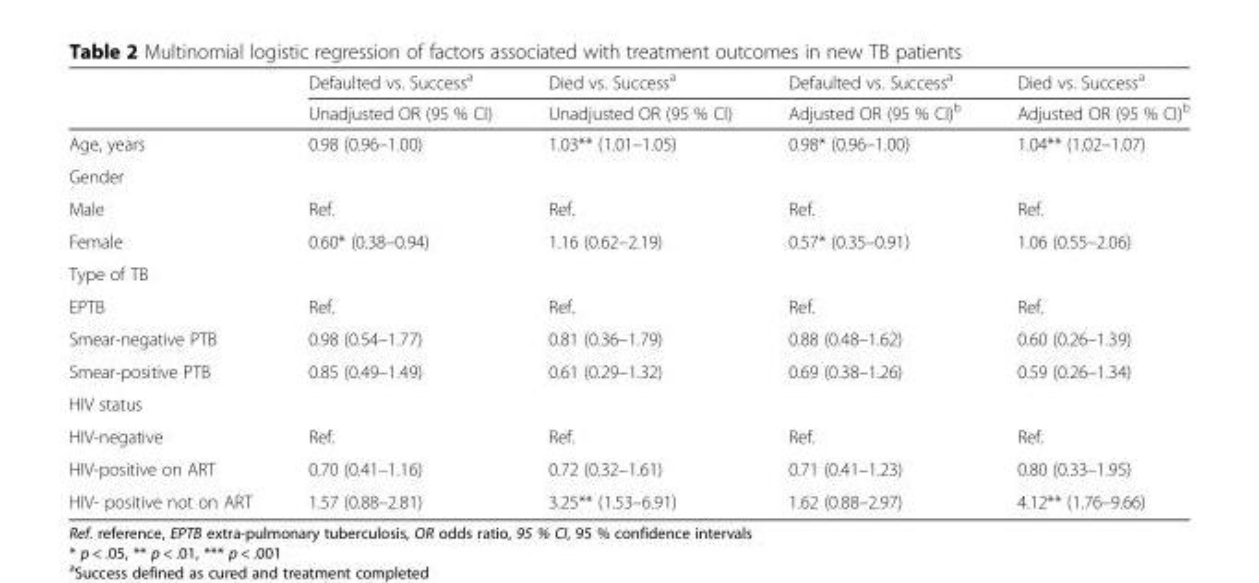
<table><thead><tr><td rowspan="2"></td><td rowspan="2">Defaulted vs. Success<sup>a</sup> Unadjusted OR (95 % CI)</td><td rowspan="2">Died vs. Success<sup>a</sup> Unadjusted OR (95 % CI)</td><td rowspan="2">Defaulted vs. Success<sup>a</sup> Adjusted OR (95 % CI)<sup>b</sup></td><td rowspan="2">Died vs. Success<sup>a</sup> Adjusted OR (95 % CI)<sup>b</sup></td></tr><tr></tr></thead><tbody><tr><td>Age, years</td><td>0.98 (0.96–1.00)</td><td>1.03** (1.01–1.05)</td><td>0.98* (0.96–1.00)</td><td>1.04** (1.02–1.07)</td></tr><tr><td colspan="5">Gender</td></tr><tr><td>Male</td><td>Ref.</td><td>Ref.</td><td>Ref.</td><td>Ref.</td></tr><tr><td>Female</td><td>0.60* (0.38–0.94)</td><td>1.16 (0.62–2.19)</td><td>0.57* (0.35–0.91)</td><td>1.06 (0.55–2.06)</td></tr><tr><td colspan="5">Type of TB</td></tr><tr><td>EPTB</td><td>Ref.</td><td>Ref.</td><td>Ref.</td><td>Ref.</td></tr><tr><td>Smear-negative PTB</td><td>0.98 (0.54–1.77)</td><td>0.81 (0.36–1.79)</td><td>0.88 (0.48–1.62)</td><td>0.60 (0.26–1.39)</td></tr><tr><td>Smear-positive PTB</td><td>0.85 (0.49–1.49)</td><td>0.61 (0.29–1.32)</td><td>0.69 (0.38–1.26)</td><td>0.59 (0.26–1.34)</td></tr><tr><td colspan="5">HIV status</td></tr><tr><td>HIV-negative</td><td>Ref.</td><td>Ref.</td><td>Ref.</td><td>Ref.</td></tr><tr><td>HIV-positive on ART</td><td>0.70 (0.41–1.16)</td><td>0.72 (0.32–1.61)</td><td>0.71 (0.41–1.23)</td><td>0.80 (0.33–1.95)</td></tr><tr><td>HIV- positive not on ART</td><td>1.57 (0.88–2.81)</td><td>3.25** (1.53–6.91)</td><td>1.62 (0.88–2.97)</td><td>4.12** (1.76–9.66)</td></tr></tbody></table>